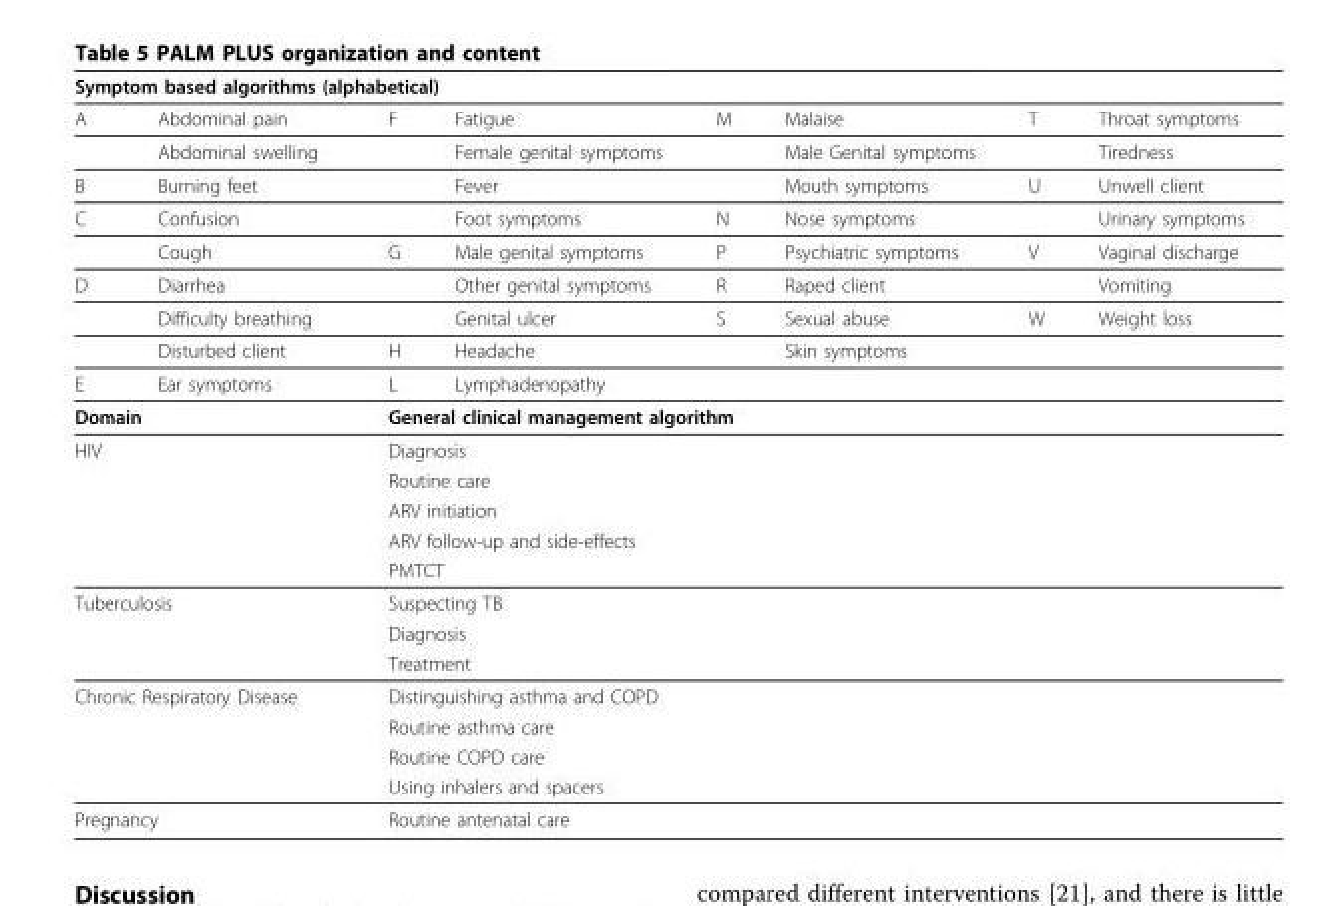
<table><thead><tr><td colspan="8">Symptom based algorithms (alphabetical)</td></tr><tr><td>A</td><td>Abdominal pain</td><td>F</td><td>Fatigue</td><td>M</td><td>Malaise</td><td>T</td><td>Throat symptoms</td></tr></thead><tbody><tr><td></td><td>Abdominal swelling</td><td></td><td>Female genital symptoms</td><td></td><td>Male Genital symptoms</td><td></td><td>Tiredness</td></tr><tr><td>B</td><td>Burning feet</td><td></td><td>Fever</td><td></td><td>Mouth symptoms</td><td>U</td><td>Unwell client</td></tr><tr><td rowspan="2">C</td><td>Confusion</td><td></td><td>Foot symptoms</td><td>N</td><td>Nose symptoms</td><td></td><td>Urinary symptoms</td></tr><tr><td>Cough</td><td>G</td><td>Male genital symptoms</td><td>P</td><td>Psychiatric symptoms</td><td>V</td><td>Vaginal discharge</td></tr><tr><td rowspan="3">D</td><td>Diarrhea</td><td></td><td>Other genital symptoms</td><td>R</td><td>Raped client</td><td></td><td>Vomiting</td></tr><tr><td>Difficulty breathing</td><td></td><td>Genital ulcer</td><td>S</td><td>Sexual abuse</td><td>W</td><td>Weight loss</td></tr><tr><td>Disturbed client</td><td>H</td><td>Headache</td><td></td><td>Skin symptoms</td><td></td><td></td></tr><tr><td>E</td><td>Ear symptoms</td><td>L</td><td>Lymphadenopathy</td><td></td><td></td><td></td><td></td></tr><tr><td colspan="2">Domain</td><td colspan="6">General clinical management algorithm</td></tr><tr><td colspan="2">HIV</td><td colspan="6">Diagnosis</td></tr><tr><td></td><td></td><td colspan="6">Routine care</td></tr><tr><td></td><td></td><td colspan="6">ARV initiation</td></tr><tr><td></td><td></td><td colspan="6">ARV follow-up and side-effects</td></tr><tr><td></td><td></td><td colspan="6">PMTCT</td></tr><tr><td colspan="2">Tuberculosis</td><td colspan="6">Suspecting TB</td></tr><tr><td></td><td></td><td colspan="6">Diagnosis</td></tr><tr><td></td><td></td><td colspan="6">Treatment</td></tr><tr><td colspan="2">Chronic Respiratory Disease</td><td colspan="6">Distinguishing asthma and COPD</td></tr><tr><td></td><td></td><td colspan="6">Routine asthma care</td></tr><tr><td></td><td></td><td colspan="6">Routine COPD care</td></tr><tr><td></td><td></td><td colspan="6">Using inhalers and spacers</td></tr><tr><td colspan="2">Pregnancy</td><td colspan="6">Routine antenatal care</td></tr></tbody></table>